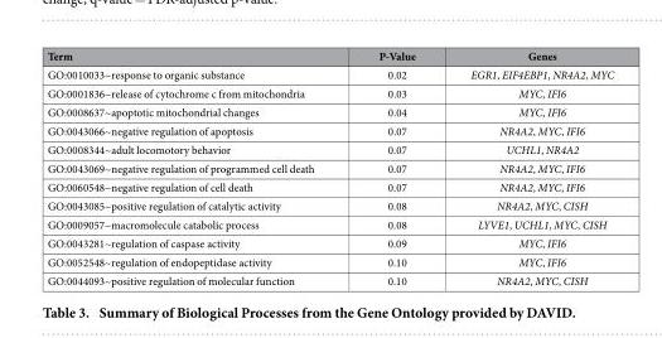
<table><thead><tr><td>Term</td><td>P-Value</td><td>Genes</td></tr></thead><tbody><tr><td>GO:0010033~response to organic substance</td><td>0.02</td><td>EGR1, EIF4EBP1, NR4A2, MYC</td></tr><tr><td>GO:0001836~release of cytochrome c from mitochondria</td><td>0.03</td><td>MYC, IFI6</td></tr><tr><td>GO:0008637~apoptotic mitochondrial changes</td><td>0.04</td><td>MYC, IFI6</td></tr><tr><td>GO:0043066~negative regulation of apoptosis</td><td>0.07</td><td>NR4A2, MYC, IFI6</td></tr><tr><td>GO:0008344~adult locomotory behavior</td><td>0.07</td><td>UCHL1, NR4A2</td></tr><tr><td>GO:0043069~negative regulation of programmed cell death</td><td>0.07</td><td>NR4A2, MYC, IFI6</td></tr><tr><td>GO:0060548~negative regulation of cell death</td><td>0.07</td><td>NR4A2, MYC, IFI6</td></tr><tr><td>GO:0043085~positive regulation of catalytic activity</td><td>0.08</td><td>NR4A2, MYC, CISH</td></tr><tr><td>GO:0009057~macromolecule catabolic process</td><td>0.08</td><td>LYVE1, UCHL1, MYC, CISH</td></tr><tr><td>GO:0043281~regulation of caspase activity</td><td>0.09</td><td>MYC, IFI6</td></tr><tr><td>GO:0052548~regulation of endopeptidase activity</td><td>0.10</td><td>MYC, IFI6</td></tr><tr><td>GO:0044093~positive regulation of molecular function</td><td>0.10</td><td>NR4A2, MYC, CISH</td></tr></tbody></table>